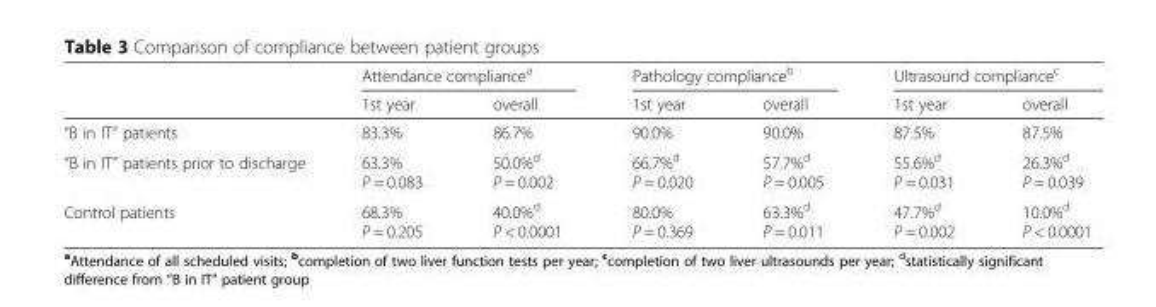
<table><thead><tr><td rowspan="2"></td><td colspan="2">Attendance compliance<sup>a</sup></td><td colspan="2">Pathology compliance<sup>b</sup></td><td colspan="2">Ultrasound compliance<sup>c</sup></td></tr><tr><td>1st year</td><td>overall</td><td>1st year</td><td>overall</td><td>1st year</td><td>overall</td></tr></thead><tbody><tr><td>“B in IT” patients</td><td>83.3%</td><td>86.7%</td><td>90.0%</td><td>90.0%</td><td>87.5%</td><td>87.5%</td></tr><tr><td>“B in IT” patients prior to discharge</td><td>63.3% P = 0.083</td><td>50.0%<sup>d</sup> P = 0.002</td><td>66.7%<sup>d</sup> P = 0.020</td><td>57.7%<sup>d</sup> P = 0.005</td><td>55.6%<sup>d</sup> P = 0.031</td><td>26.3%<sup>d</sup> P = 0.039</td></tr><tr><td>Control patients</td><td>68.3% P = 0.205</td><td>40.0%<sup>d</sup> P &lt; 0.0001</td><td>80.0% P = 0.369</td><td>63.3%<sup>d</sup> P = 0.011</td><td>47.7%<sup>d</sup> P = 0.002</td><td>10.0%<sup>d</sup> P &lt; 0.0001</td></tr></tbody></table>